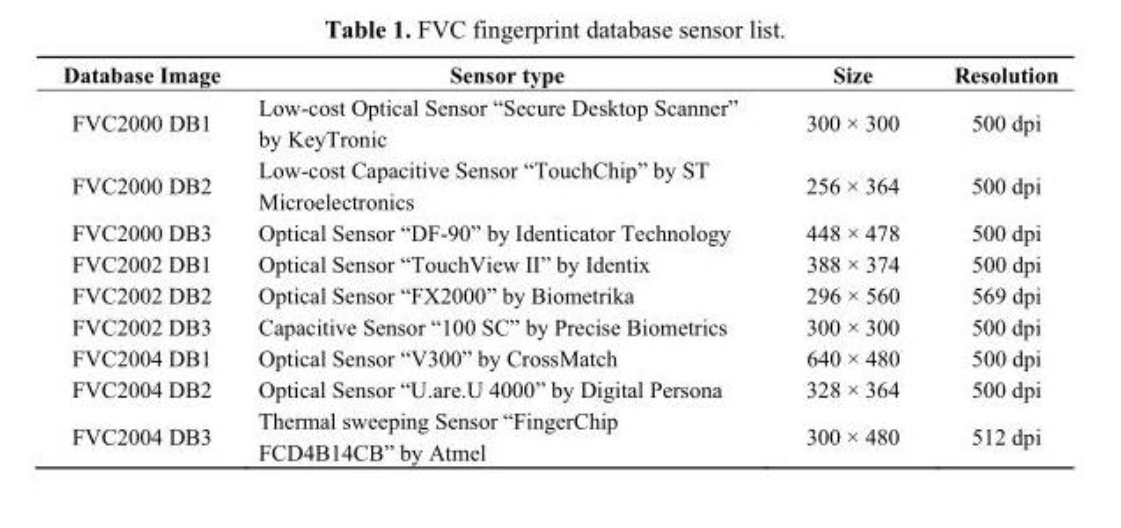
<table><thead><tr><td>Database Image</td><td>Sensor type</td><td>Size</td><td>Resolution</td></tr></thead><tbody><tr><td>FVC2000 DB1</td><td>Low-cost Optical Sensor “Secure Desktop Scanner” by KeyTronic</td><td>300 × 300</td><td>500 dpi</td></tr><tr><td>FVC2000 DB2</td><td>Low-cost Capacitive Sensor “TouchChip” by ST Microelectronics</td><td>256 × 364</td><td>500 dpi</td></tr><tr><td>FVC2000 DB3</td><td>Optical Sensor “DF-90” by Identicator Technology</td><td>448 × 478</td><td>500 dpi</td></tr><tr><td>FVC2002 DB1</td><td>Optical Sensor “TouchView II” by Identix</td><td>388 × 374</td><td>500 dpi</td></tr><tr><td>FVC2002 DB2</td><td>Optical Sensor “FX2000” by Biometrika</td><td>296 × 560</td><td>569 dpi</td></tr><tr><td>FVC2002 DB3</td><td>Capacitive Sensor “100 SC” by Precise Biometrics</td><td>300 × 300</td><td>500 dpi</td></tr><tr><td>FVC2004 DB1</td><td>Optical Sensor “V300” by CrossMatch</td><td>640 × 480</td><td>500 dpi</td></tr><tr><td>FVC2004 DB2</td><td>Optical Sensor “U.are.U 4000” by Digital Persona</td><td>328 × 364</td><td>500 dpi</td></tr><tr><td>FVC2004 DB3</td><td>Thermal sweeping Sensor “FingerChip FCD4B14CB” by Atmel</td><td>300 × 480</td><td>512 dpi</td></tr></tbody></table>